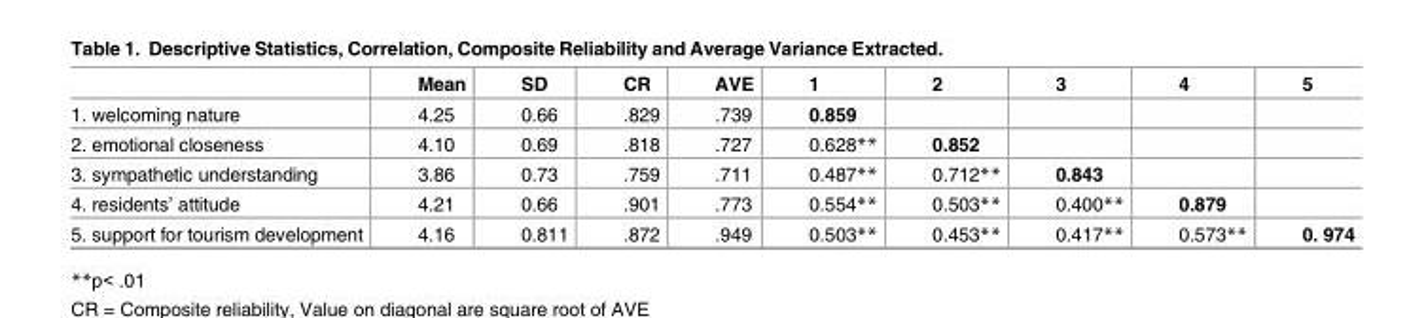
<table><thead><tr><td></td><td>Mean</td><td>SD</td><td>CR</td><td>AVE</td><td>1</td><td>2</td><td>3</td><td>4</td><td>5</td></tr></thead><tbody><tr><td>1. welcoming nature</td><td>4.25</td><td>0.66</td><td>.829</td><td>.739</td><td>0.859</td><td></td><td></td><td></td><td></td></tr><tr><td>2. emotional closeness</td><td>4.10</td><td>0.69</td><td>.818</td><td>.727</td><td>0.628**</td><td>0.852</td><td></td><td></td><td></td></tr><tr><td>3. sympathetic understanding</td><td>3.86</td><td>0.73</td><td>.759</td><td>.711</td><td>0.487**</td><td>0.712**</td><td>0.843</td><td></td><td></td></tr><tr><td>4. residents’ attitude</td><td>4.21</td><td>0.66</td><td>.901</td><td>.773</td><td>0.554**</td><td>0.503**</td><td>0.400**</td><td>0.879</td><td></td></tr><tr><td>5. support for tourism development</td><td>4.16</td><td>0.811</td><td>.872</td><td>.949</td><td>0.503**</td><td>0.453**</td><td>0.417**</td><td>0.573**</td><td>0. 974</td></tr></tbody></table>